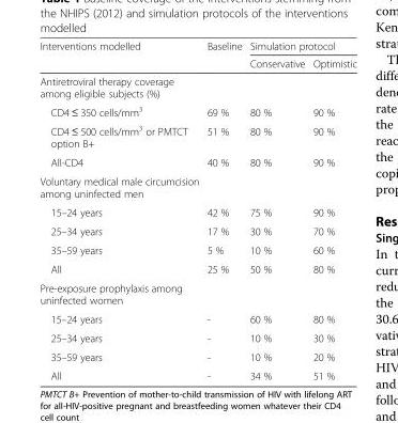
<table><thead><tr><td rowspan="2">Interventions modelled</td><td rowspan="2">Baseline</td><td colspan="2">Simulation protocol</td></tr><tr><td>Conservative</td><td>Optimistic</td></tr></thead><tbody><tr><td colspan="4">Antiretroviral therapy coverage among eligible subjects (%)</td></tr><tr><td>CD4 ≤ 350 cells/mm<sup>3</sup></td><td>69 %</td><td>80 %</td><td>90 %</td></tr><tr><td>CD4 ≤ 500 cells/mm<sup>3</sup> or PMTCT option B+</td><td>51 %</td><td>80 %</td><td>90 %</td></tr><tr><td>All-CD4</td><td>40 %</td><td>80 %</td><td>90 %</td></tr><tr><td colspan="4">Voluntary medical male circumcision among uninfected men</td></tr><tr><td>15–24 years</td><td>42 %</td><td>75 %</td><td>90 %</td></tr><tr><td>25–34 years</td><td>17 %</td><td>30 %</td><td>70 %</td></tr><tr><td>35–59 years</td><td>5 %</td><td>10 %</td><td>60 %</td></tr><tr><td>All</td><td>25 %</td><td>50 %</td><td>80 %</td></tr><tr><td colspan="4">Pre-exposure prophylaxis among uninfected women</td></tr><tr><td>15–24 years</td><td>-</td><td>60 %</td><td>80 %</td></tr><tr><td>25–34 years</td><td>-</td><td>10 %</td><td>30 %</td></tr><tr><td>35–59 years</td><td>-</td><td>10 %</td><td>20 %</td></tr><tr><td>All</td><td>-</td><td>34 %</td><td>51 %</td></tr></tbody></table>